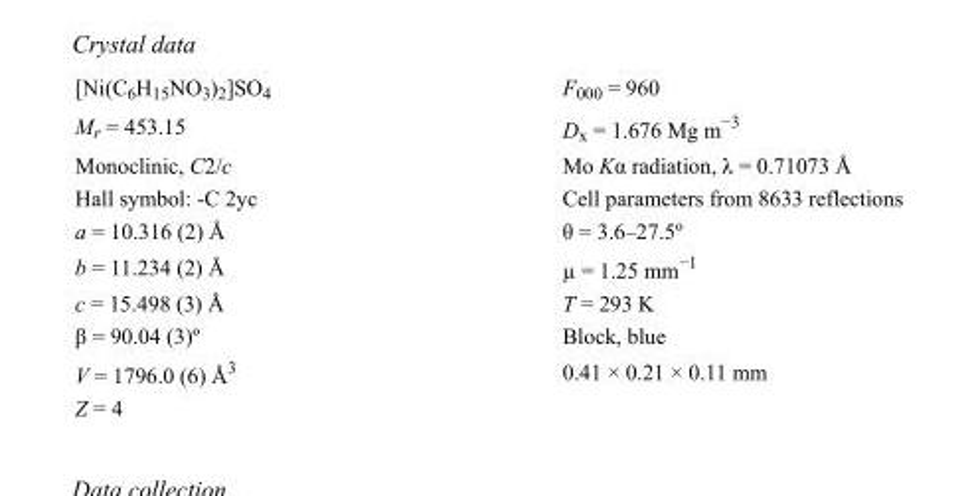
<table><tbody><tr><td>[Ni(C<sub>6</sub>H<sub>15</sub>NO<sub>3</sub>)<sub>2</sub>]SO<sub>4</sub></td><td>F000 = 960</td></tr><tr><td>M<sub>r</sub> = 453.15</td><td>D<sub>x</sub> = 1.676 Mg m<sup>−3</sup></td></tr><tr><td>Monoclinic, C2/c</td><td>Mo Kα radiation, λ = 0.71073 Å</td></tr><tr><td>Hall symbol: -C 2yc</td><td>Cell parameters from 8633 reflections</td></tr><tr><td>a = 10.316 (2) Å</td><td>θ = 3.6–27.5º</td></tr><tr><td>b = 11.234 (2) Å</td><td>µ = 1.25 mm<sup>−1</sup></td></tr><tr><td>c = 15.498 (3) Å</td><td>T = 293 K</td></tr><tr><td>β = 90.04 (3)º</td><td>Block, blue</td></tr><tr><td>V = 1796.0 (6) Å<sup>3</sup></td><td>0.41 × 0.21 × 0.11 mm</td></tr><tr><td>Z = 4</td><td></td></tr></tbody></table>